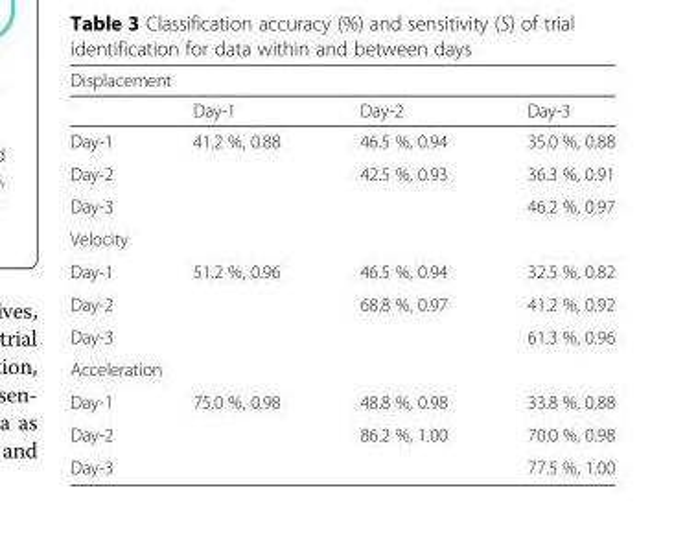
<table><thead><tr><td colspan="4">Displacement</td></tr><tr><td></td><td>Day-1</td><td>Day-2</td><td>Day-3</td></tr></thead><tbody><tr><td>Day-1</td><td>41.2 %, 0.88</td><td>46.5 %, 0.94</td><td>35.0 %, 0.88</td></tr><tr><td>Day-2</td><td></td><td>42.5 %, 0.93</td><td>36.3 %, 0.91</td></tr><tr><td>Day-3</td><td></td><td></td><td>46.2 %, 0.97</td></tr><tr><td colspan="4">Velocity</td></tr><tr><td>Day-1</td><td>51.2 %, 0.96</td><td>46.5 %, 0.94</td><td>32.5 %, 0.82</td></tr><tr><td>Day-2</td><td></td><td>68.8 %, 0.97</td><td>41.2 %, 0.92</td></tr><tr><td>Day-3</td><td></td><td></td><td>61.3 %, 0.96</td></tr><tr><td colspan="4">Acceleration</td></tr><tr><td>Day-1</td><td>75.0 %, 0.98</td><td>48.8 %, 0.98</td><td>33.8 %, 0.88</td></tr><tr><td>Day-2</td><td></td><td>86.2 %, 1.00</td><td>70.0 %, 0.98</td></tr><tr><td>Day-3</td><td></td><td></td><td>77.5 %, 1.00</td></tr></tbody></table>